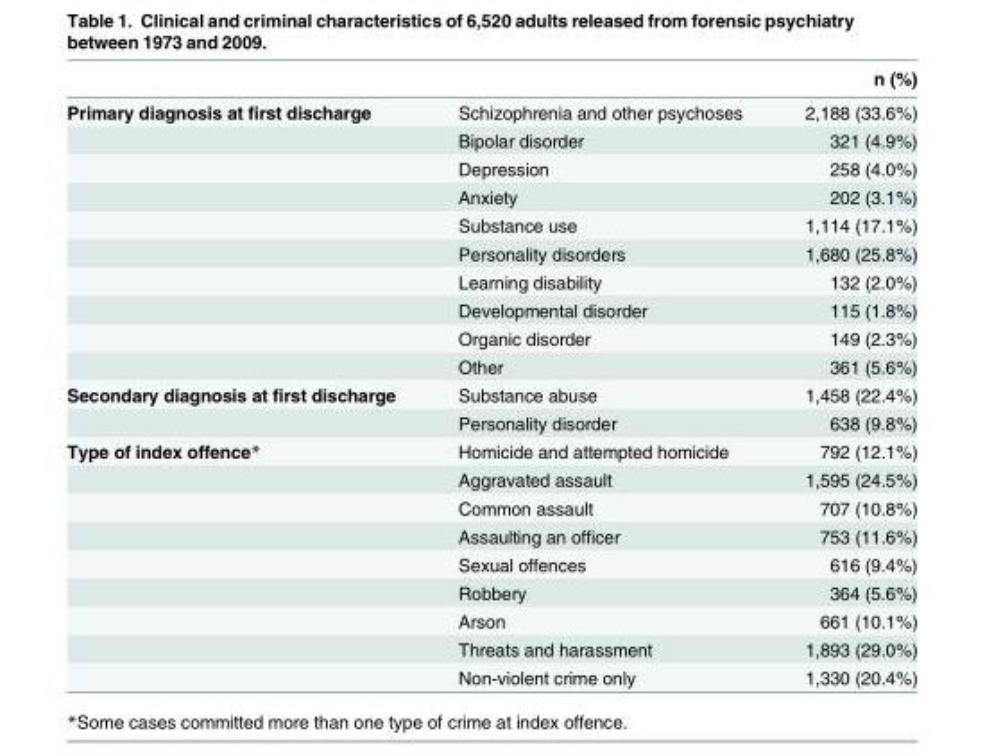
<table><thead><tr><td></td><td></td><td>n (%)</td></tr></thead><tbody><tr><td rowspan="10">Primary diagnosis at first discharge</td><td>Schizophrenia and other psychoses</td><td>2,188 (33.6%)</td></tr><tr><td>Bipolar disorder</td><td>321 (4.9%)</td></tr><tr><td>Depression</td><td>258 (4.0%)</td></tr><tr><td>Anxiety</td><td>202 (3.1%)</td></tr><tr><td>Substance use</td><td>1,114 (17.1%)</td></tr><tr><td>Personality disorders</td><td>1,680 (25.8%)</td></tr><tr><td>Learning disability</td><td>132 (2.0%)</td></tr><tr><td>Developmental disorder</td><td>115 (1.8%)</td></tr><tr><td>Organic disorder</td><td>149 (2.3%)</td></tr><tr><td>Other</td><td>361 (5.6%)</td></tr><tr><td rowspan="2">Secondary diagnosis at first discharge</td><td>Substance abuse</td><td>1,458 (22.4%)</td></tr><tr><td>Personality disorder</td><td>638 (9.8%)</td></tr><tr><td rowspan="9">Type of index offence*</td><td>Homicide and attempted homicide</td><td>792 (12.1%)</td></tr><tr><td>Aggravated assault</td><td>1,595 (24.5%)</td></tr><tr><td>Common assault</td><td>707 (10.8%)</td></tr><tr><td>Assaulting an officer</td><td>753 (11.6%)</td></tr><tr><td>Sexual offences</td><td>616 (9.4%)</td></tr><tr><td>Robbery</td><td>364 (5.6%)</td></tr><tr><td>Arson</td><td>661 (10.1%)</td></tr><tr><td>Threats and harassment</td><td>1,893 (29.0%)</td></tr><tr><td>Non-violent crime only</td><td>1,330 (20.4%)</td></tr></tbody></table>